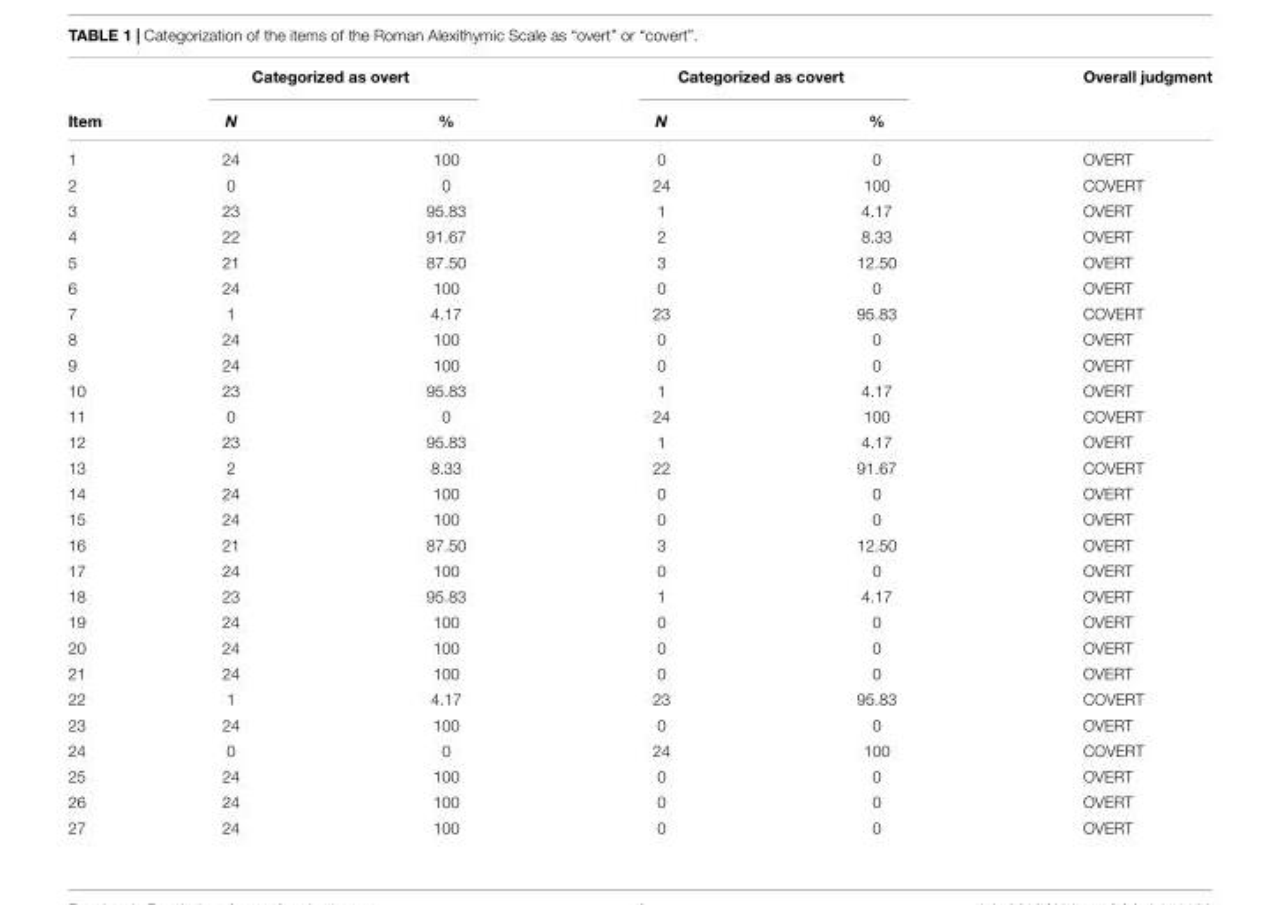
<table><thead><tr><td rowspan="2">Item</td><td colspan="2">Categorized as overt</td><td colspan="2">Categorized as covert</td><td rowspan="2">Overall judgment</td></tr><tr><td>N</td><td>%</td><td>N</td><td>%</td></tr></thead><tbody><tr><td>1</td><td>24</td><td>100</td><td>0</td><td>0</td><td>OVERT</td></tr><tr><td>2</td><td>0</td><td>0</td><td>24</td><td>100</td><td>COVERT</td></tr><tr><td>3</td><td>23</td><td>95.83</td><td>1</td><td>4.17</td><td>OVERT</td></tr><tr><td>4</td><td>22</td><td>91.67</td><td>2</td><td>8.33</td><td>OVERT</td></tr><tr><td>5</td><td>21</td><td>87.50</td><td>3</td><td>12.50</td><td>OVERT</td></tr><tr><td>6</td><td>24</td><td>100</td><td>0</td><td>0</td><td>OVERT</td></tr><tr><td>7</td><td>1</td><td>4.17</td><td>23</td><td>95.83</td><td>COVERT</td></tr><tr><td>8</td><td>24</td><td>100</td><td>0</td><td>0</td><td>OVERT</td></tr><tr><td>9</td><td>24</td><td>100</td><td>0</td><td>0</td><td>OVERT</td></tr><tr><td>10</td><td>23</td><td>95.83</td><td>1</td><td>4.17</td><td>OVERT</td></tr><tr><td>11</td><td>0</td><td>0</td><td>24</td><td>100</td><td>COVERT</td></tr><tr><td>12</td><td>23</td><td>95.83</td><td>1</td><td>4.17</td><td>OVERT</td></tr><tr><td>13</td><td>2</td><td>8.33</td><td>22</td><td>91.67</td><td>COVERT</td></tr><tr><td>14</td><td>24</td><td>100</td><td>0</td><td>0</td><td>OVERT</td></tr><tr><td>15</td><td>24</td><td>100</td><td>0</td><td>0</td><td>OVERT</td></tr><tr><td>16</td><td>21</td><td>87.50</td><td>3</td><td>12.50</td><td>OVERT</td></tr><tr><td>17</td><td>24</td><td>100</td><td>0</td><td>0</td><td>OVERT</td></tr><tr><td>18</td><td>23</td><td>95.83</td><td>1</td><td>4.17</td><td>OVERT</td></tr><tr><td>19</td><td>24</td><td>100</td><td>0</td><td>0</td><td>OVERT</td></tr><tr><td>20</td><td>24</td><td>100</td><td>0</td><td>0</td><td>OVERT</td></tr><tr><td>21</td><td>24</td><td>100</td><td>0</td><td>0</td><td>OVERT</td></tr><tr><td>22</td><td>1</td><td>4.17</td><td>23</td><td>95.83</td><td>COVERT</td></tr><tr><td>23</td><td>24</td><td>100</td><td>0</td><td>0</td><td>OVERT</td></tr><tr><td>24</td><td>0</td><td>0</td><td>24</td><td>100</td><td>COVERT</td></tr><tr><td>25</td><td>24</td><td>100</td><td>0</td><td>0</td><td>OVERT</td></tr><tr><td>26</td><td>24</td><td>100</td><td>0</td><td>0</td><td>OVERT</td></tr><tr><td>27</td><td>24</td><td>100</td><td>0</td><td>0</td><td>OVERT</td></tr></tbody></table>